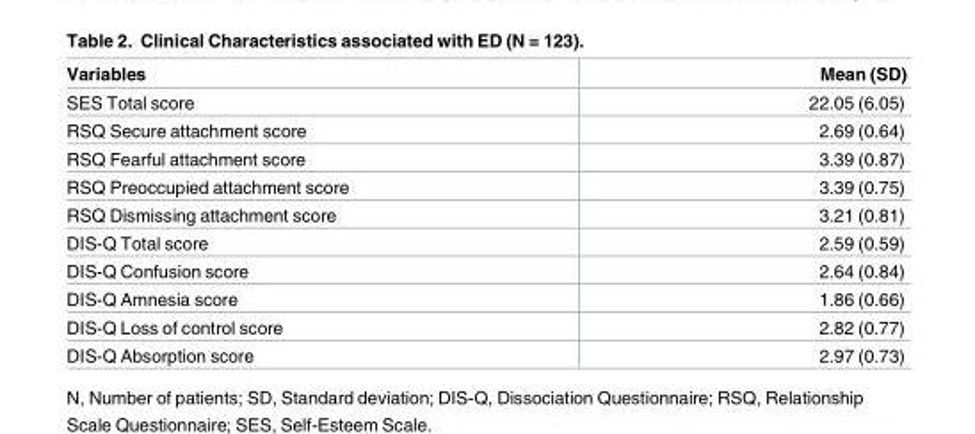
<table><thead><tr><td>Variables</td><td>Mean (SD)</td></tr></thead><tbody><tr><td>SES Total score</td><td>22.05 (6.05)</td></tr><tr><td>RSQ Secure attachment score</td><td>2.69 (0.64)</td></tr><tr><td>RSQ Fearful attachment score</td><td>3.39 (0.87)</td></tr><tr><td>RSQ Preoccupied attachment score</td><td>3.39 (0.75)</td></tr><tr><td>RSQ Dismissing attachment score</td><td>3.21 (0.81)</td></tr><tr><td>DIS-Q Total score</td><td>2.59 (0.59)</td></tr><tr><td>DIS-Q Confusion score</td><td>2.64 (0.84)</td></tr><tr><td>DIS-Q Amnesia score</td><td>1.86 (0.66)</td></tr><tr><td>DIS-Q Loss of control score</td><td>2.82 (0.77)</td></tr><tr><td>DIS-Q Absorption score</td><td>2.97 (0.73)</td></tr></tbody></table>